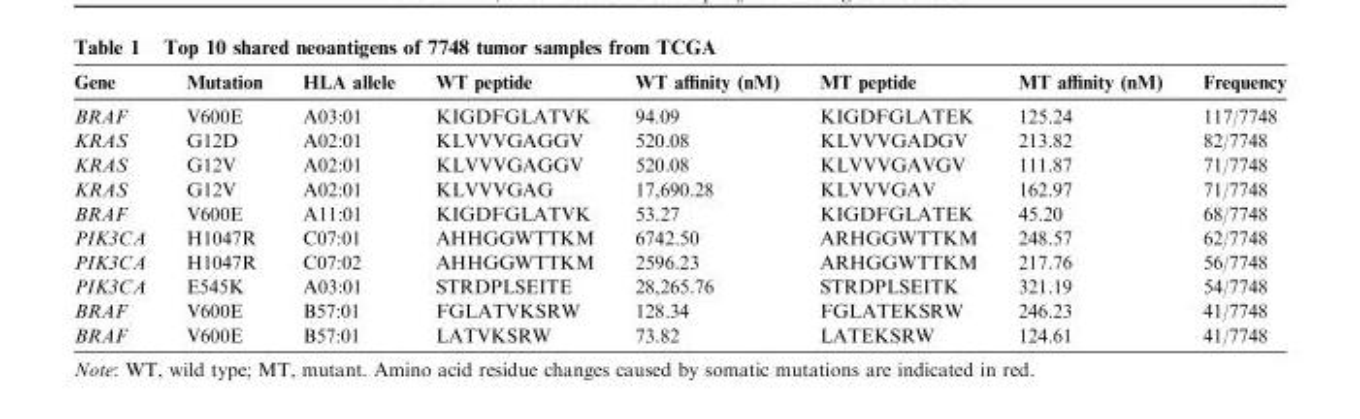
<table><thead><tr><td>Gene</td><td>Mutation</td><td>HLA allele</td><td>WT peptide</td><td>WT affinity (nM)</td><td>MT peptide</td><td>MT affinity (nM)</td><td>Frequency</td></tr></thead><tbody><tr><td>BRAF</td><td>V600E</td><td>A03:01</td><td>KIGDFGLATVK</td><td>94.09</td><td>KIGDFGLATEK</td><td>125.24</td><td>117/7748</td></tr><tr><td>KRAS</td><td>G12D</td><td>A02:01</td><td>KLVVVGAGGV</td><td>520.08</td><td>KLVVVGADGV</td><td>213.82</td><td>82/7748</td></tr><tr><td>KRAS</td><td>G12V</td><td>A02:01</td><td>KLVVVGAGGV</td><td>520.08</td><td>KLVVVGAVGV</td><td>111.87</td><td>71/7748</td></tr><tr><td>KRAS</td><td>G12V</td><td>A02:01</td><td>KLVVVGAG</td><td>17,690.28</td><td>KLVVVGAV</td><td>162.97</td><td>71/7748</td></tr><tr><td>BRAF</td><td>V600E</td><td>A11:01</td><td>KIGDFGLATVK</td><td>53.27</td><td>KIGDFGLATEK</td><td>45.20</td><td>68/7748</td></tr><tr><td>PIK3CA</td><td>H1047R</td><td>C07:01</td><td>AHHGGWTTKM</td><td>6742.50</td><td>ARHGGWTTKM</td><td>248.57</td><td>62/7748</td></tr><tr><td>PIK3CA</td><td>H1047R</td><td>C07:02</td><td>AHHGGWTTKM</td><td>2596.23</td><td>ARHGGWTTKM</td><td>217.76</td><td>56/7748</td></tr><tr><td>PIK3CA</td><td>E545K</td><td>A03:01</td><td>STRDPLSEITE</td><td>28,265.76</td><td>STRDPLSEITK</td><td>321.19</td><td>54/7748</td></tr><tr><td>BRAF</td><td>V600E</td><td>B57:01</td><td>FGLATVKSRW</td><td>128.34</td><td>FGLATEKSRW</td><td>246.23</td><td>41/7748</td></tr><tr><td>BRAF</td><td>V600E</td><td>B57:01</td><td>LATVKSRW</td><td>73.82</td><td>LATEKSRW</td><td>124.61</td><td>41/7748</td></tr></tbody></table>